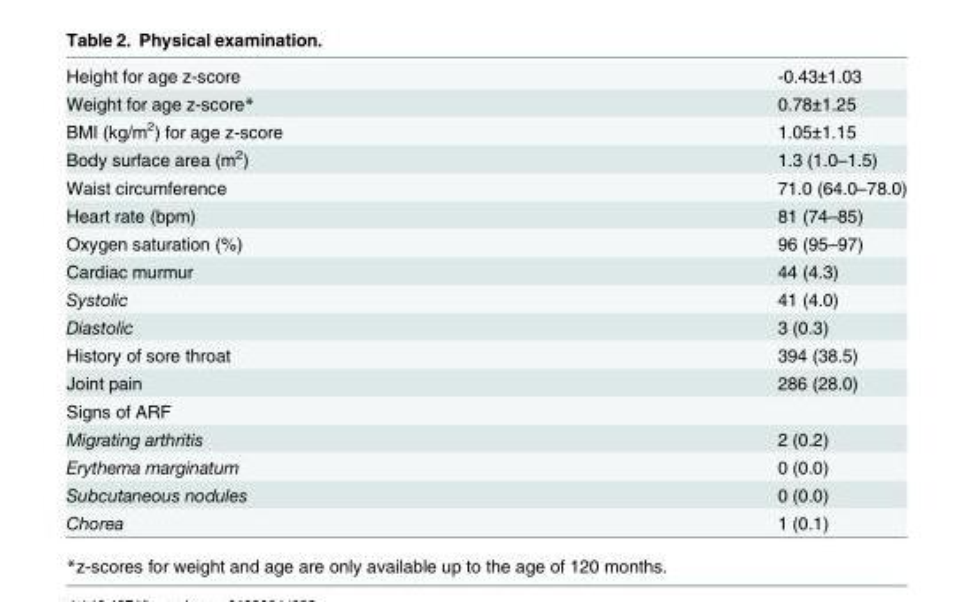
<table><tbody><tr><td>Height for age z-score</td><td>-0.43±1.03</td></tr><tr><td>Weight for age z-score*</td><td>0.78±1.25</td></tr><tr><td>BMI (kg/m<sup>2</sup>) for age z-score</td><td>1.05±1.15</td></tr><tr><td>Body surface area (m<sup>2</sup>)</td><td>1.3 (1.0–1.5)</td></tr><tr><td>Waist circumference</td><td>71.0 (64.0–78.0)</td></tr><tr><td>Heart rate (bpm)</td><td>81 (74–85)</td></tr><tr><td>Oxygen saturation (%)</td><td>96 (95–97)</td></tr><tr><td>Cardiac murmur</td><td>44 (4.3)</td></tr><tr><td>Systolic</td><td>41 (4.0)</td></tr><tr><td>Diastolic</td><td>3 (0.3)</td></tr><tr><td>History of sore throat</td><td>394 (38.5)</td></tr><tr><td>Joint pain</td><td>286 (28.0)</td></tr><tr><td colspan="2">Signs of ARF</td></tr><tr><td>Migrating arthritis</td><td>2 (0.2)</td></tr><tr><td>Erythema marginatum</td><td>0 (0.0)</td></tr><tr><td>Subcutaneous nodules</td><td>0 (0.0)</td></tr><tr><td>Chorea</td><td>1 (0.1)</td></tr></tbody></table>